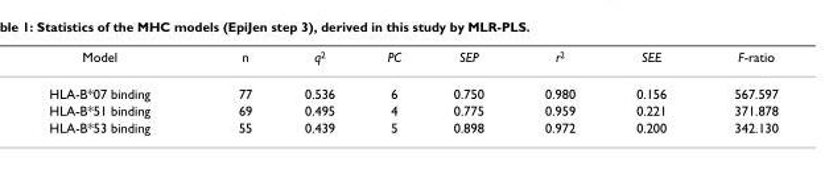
<table><thead><tr><td>Model</td><td>n</td><td>q2</td><td>PC</td><td>SEP</td><td>r2</td><td>SEE</td><td>F-ratio</td></tr></thead><tbody><tr><td>HLA-B*07 binding</td><td>77</td><td>0.536</td><td>6</td><td>0.750</td><td>0.980</td><td>0.156</td><td>567.597</td></tr><tr><td>HLA-B*51 binding</td><td>69</td><td>0.495</td><td>4</td><td>0.775</td><td>0.959</td><td>0.221</td><td>371.878</td></tr><tr><td>HLA-B*53 binding</td><td>55</td><td>0.439</td><td>5</td><td>0.898</td><td>0.972</td><td>0.200</td><td>342.130</td></tr></tbody></table>